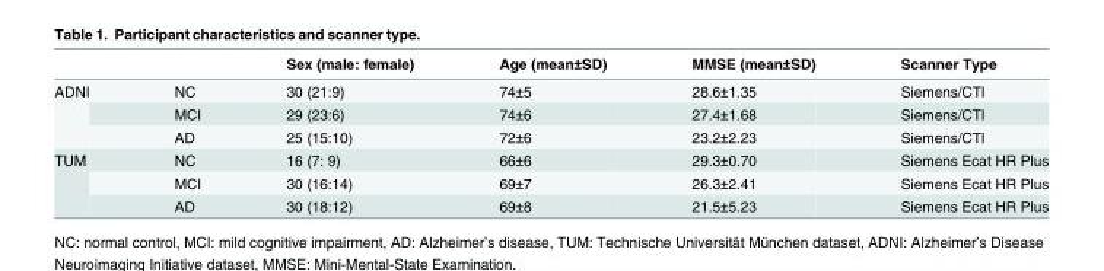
<table><thead><tr><td></td><td></td><td>Sex (male: female)</td><td>Age (mean±SD)</td><td>MMSE (mean±SD)</td><td>Scanner Type</td></tr></thead><tbody><tr><td rowspan="3">ADNI</td><td>NC</td><td>30 (21:9)</td><td>74±5</td><td>28.6±1.35</td><td>Siemens/CTI</td></tr><tr><td>MCI</td><td>29 (23:6)</td><td>74±6</td><td>27.4±1.68</td><td>Siemens/CTI</td></tr><tr><td>AD</td><td>25 (15:10)</td><td>72±6</td><td>23.2±2.23</td><td>Siemens/CTI</td></tr><tr><td rowspan="3">TUM</td><td>NC</td><td>16 (7: 9)</td><td>66±6</td><td>29.3±0.70</td><td>Siemens Ecat HR Plus</td></tr><tr><td>MCI</td><td>30 (16:14)</td><td>69±7</td><td>26.3±2.41</td><td>Siemens Ecat HR Plus</td></tr><tr><td>AD</td><td>30 (18:12)</td><td>69±8</td><td>21.5±5.23</td><td>Siemens Ecat HR Plus</td></tr></tbody></table>